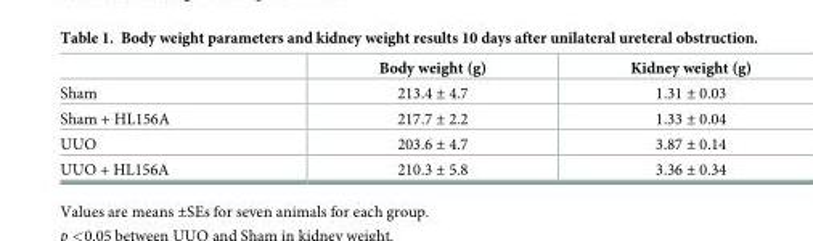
<table><thead><tr><td></td><td>Body weight (g)</td><td>Kidney weight (g)</td></tr></thead><tbody><tr><td>Sham</td><td>213.4 ± 4.7</td><td>1.31 ± 0.03</td></tr><tr><td>Sham + HL156A</td><td>217.7 ± 2.2</td><td>1.33 ± 0.04</td></tr><tr><td>UUO</td><td>203.6 ± 4.7</td><td>3.87 ± 0.14</td></tr><tr><td>UUO + HL156A</td><td>210.3 ± 5.8</td><td>3.36 ± 0.34</td></tr></tbody></table>